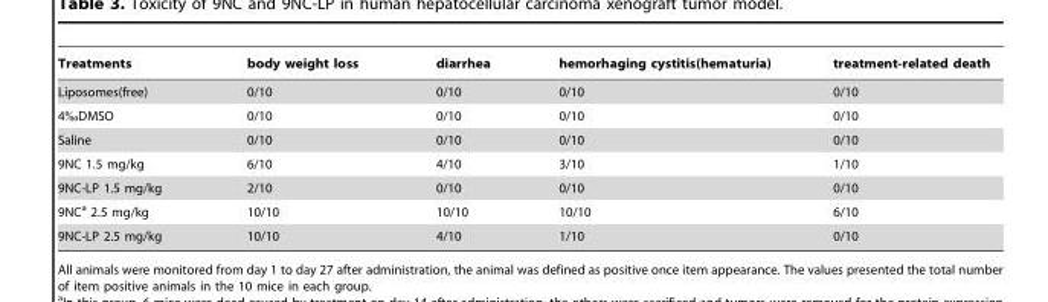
<table><thead><tr><td>Treatments</td><td>body weight loss</td><td>diarrhea</td><td>hemorhaging cystitis(hematuria)</td><td>treatment-related death</td></tr></thead><tbody><tr><td>Liposomes(free)</td><td>0/10</td><td>0/10</td><td>0/10</td><td>0/10</td></tr><tr><td>4‰DMSO</td><td>0/10</td><td>0/10</td><td>0/10</td><td>0/10</td></tr><tr><td>Saline</td><td>0/10</td><td>0/10</td><td>0/10</td><td>0/10</td></tr><tr><td>9NC 1.5 mg/kg</td><td>6/10</td><td>4/10</td><td>3/10</td><td>1/10</td></tr><tr><td>9NC-LP 1.5 mg/kg</td><td>2/10</td><td>0/10</td><td>0/10</td><td>0/10</td></tr><tr><td>9NC<sup>a</sup> 2.5 mg/kg</td><td>10/10</td><td>10/10</td><td>10/10</td><td>6/10</td></tr><tr><td>9NC-LP 2.5 mg/kg</td><td>10/10</td><td>4/10</td><td>1/10</td><td>0/10</td></tr></tbody></table>